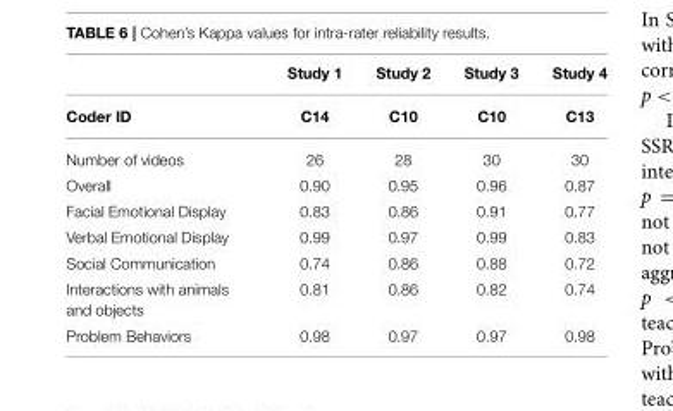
<table><thead><tr><td></td><td>Study 1</td><td>Study 2</td><td>Study 3</td><td>Study 4</td></tr></thead><tbody><tr><td>Coder ID</td><td>C14</td><td>C10</td><td>C10</td><td>C13</td></tr><tr><td>Number of videos</td><td>26</td><td>28</td><td>30</td><td>30</td></tr><tr><td>Overall</td><td>0.90</td><td>0.95</td><td>0.96</td><td>0.87</td></tr><tr><td>Facial Emotional Display</td><td>0.83</td><td>0.86</td><td>0.91</td><td>0.77</td></tr><tr><td>Verbal Emotional Display</td><td>0.99</td><td>0.97</td><td>0.99</td><td>0.83</td></tr><tr><td>Social Communication</td><td>0.74</td><td>0.86</td><td>0.88</td><td>0.72</td></tr><tr><td>Interactions with animals and objects</td><td>0.81</td><td>0.86</td><td>0.82</td><td>0.74</td></tr><tr><td>Problem Behaviors</td><td>0.98</td><td>0.97</td><td>0.97</td><td>0.98</td></tr></tbody></table>